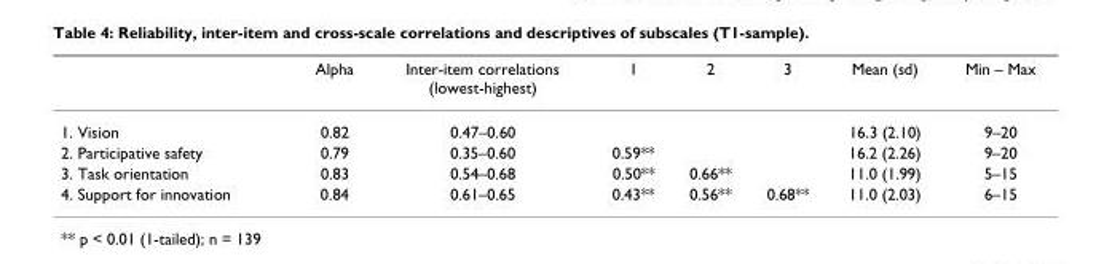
<table><thead><tr><td></td><td>Alpha</td><td>Inter-item correlations (lowest-highest)</td><td>1</td><td>2</td><td>3</td><td>Mean (sd)</td><td>Min – Max</td></tr></thead><tbody><tr><td>1. Vision</td><td>0.82</td><td>0.47–0.60</td><td></td><td></td><td></td><td>16.3 (2.10)</td><td>9–20</td></tr><tr><td>2. Participative safety</td><td>0.79</td><td>0.35–0.60</td><td>0.59**</td><td></td><td></td><td>16.2 (2.26)</td><td>9–20</td></tr><tr><td>3. Task orientation</td><td>0.83</td><td>0.54–0.68</td><td>0.50**</td><td>0.66**</td><td></td><td>11.0 (1.99)</td><td>5–15</td></tr><tr><td>4. Support for innovation</td><td>0.84</td><td>0.61–0.65</td><td>0.43**</td><td>0.56**</td><td>0.68**</td><td>11.0 (2.03)</td><td>6–15</td></tr></tbody></table>